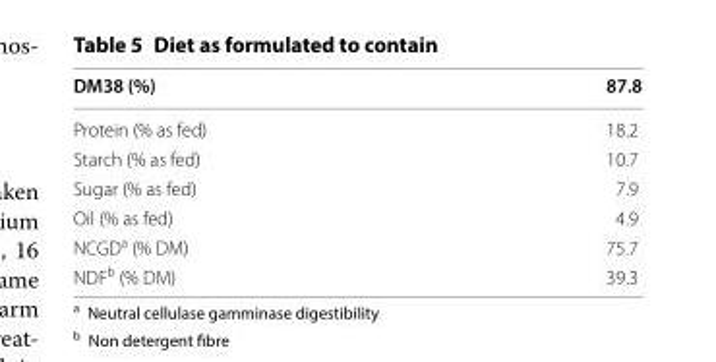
<table><thead><tr><td>DM38 (%)</td><td>87.8</td></tr></thead><tbody><tr><td>Protein (% as fed)</td><td>18.2</td></tr><tr><td>Starch (% as fed)</td><td>10.7</td></tr><tr><td>Sugar (% as fed)</td><td>7.9</td></tr><tr><td>Oil (% as fed)</td><td>4.9</td></tr><tr><td>NCGD<sup>a</sup> (% DM)</td><td>75.7</td></tr><tr><td>NDF<sup>b</sup> (% DM)</td><td>39.3</td></tr></tbody></table>